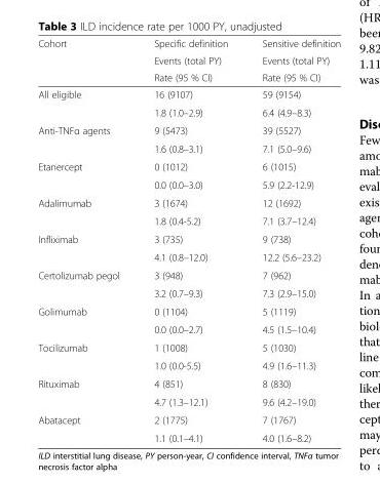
<table><thead><tr><td rowspan="3">Cohort</td><td rowspan="3">Specific definition Events (total PY) Rate (95 % CI)</td><td rowspan="3">Sensitive definition Events (total PY) Rate (95 % CI)</td></tr><tr></tr><tr></tr></thead><tbody><tr><td rowspan="2">All eligible</td><td>16 (9107)</td><td>59 (9154)</td></tr><tr><td>1.8 (1.0–2.9)</td><td>6.4 (4.9–8.3)</td></tr><tr><td rowspan="2">Anti-TNFα agents</td><td>9 (5473)</td><td>39 (5527)</td></tr><tr><td>1.6 (0.8–3.1)</td><td>7.1 (5.0–9.6)</td></tr><tr><td rowspan="2">Etanercept</td><td>0 (1012)</td><td>6 (1015)</td></tr><tr><td>0.0 (0.0–3.0)</td><td>5.9 (2.2-12.9)</td></tr><tr><td rowspan="2">Adalimumab</td><td>3 (1674)</td><td>12 (1692)</td></tr><tr><td>1.8 (0.4-5.2)</td><td>7.1 (3.7–12.4)</td></tr><tr><td rowspan="2">Infliximab</td><td>3 (735)</td><td>9 (738)</td></tr><tr><td>4.1 (0.8–12.0)</td><td>12.2 (5.6–23.2)</td></tr><tr><td rowspan="2">Certolizumab pegol</td><td>3 (948)</td><td>7 (962)</td></tr><tr><td>3.2 (0.7–9.3)</td><td>7.3 (2.9–15.0)</td></tr><tr><td rowspan="2">Golimumab</td><td>0 (1104)</td><td>5 (1119)</td></tr><tr><td>0.0 (0.0–2.7)</td><td>4.5 (1.5–10.4)</td></tr><tr><td rowspan="2">Tocilizumab</td><td>1 (1008)</td><td>5 (1030)</td></tr><tr><td>1.0 (0.0-5.5)</td><td>4.9 (1.6–11.3)</td></tr><tr><td rowspan="2">Rituximab</td><td>4 (851)</td><td>8 (830)</td></tr><tr><td>4.7 (1.3–12.1)</td><td>9.6 (4.2–19.0)</td></tr><tr><td rowspan="2">Abatacept</td><td>2 (1775)</td><td>7 (1767)</td></tr><tr><td>1.1 (0.1–4.1)</td><td>4.0 (1.6–8.2)</td></tr></tbody></table>